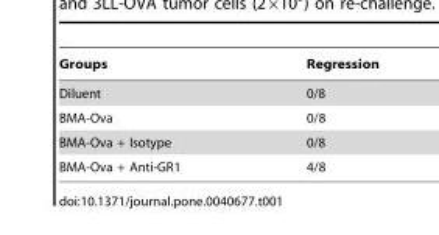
<table><thead><tr><td>Groups</td><td>Regression</td></tr></thead><tbody><tr><td>Diluent</td><td>0/8</td></tr><tr><td>BMA-Ova</td><td>0/8</td></tr><tr><td>BMA-Ova + Isotype</td><td>0/8</td></tr><tr><td>BMA-Ova + Anti-GR1</td><td>4/8</td></tr></tbody></table>